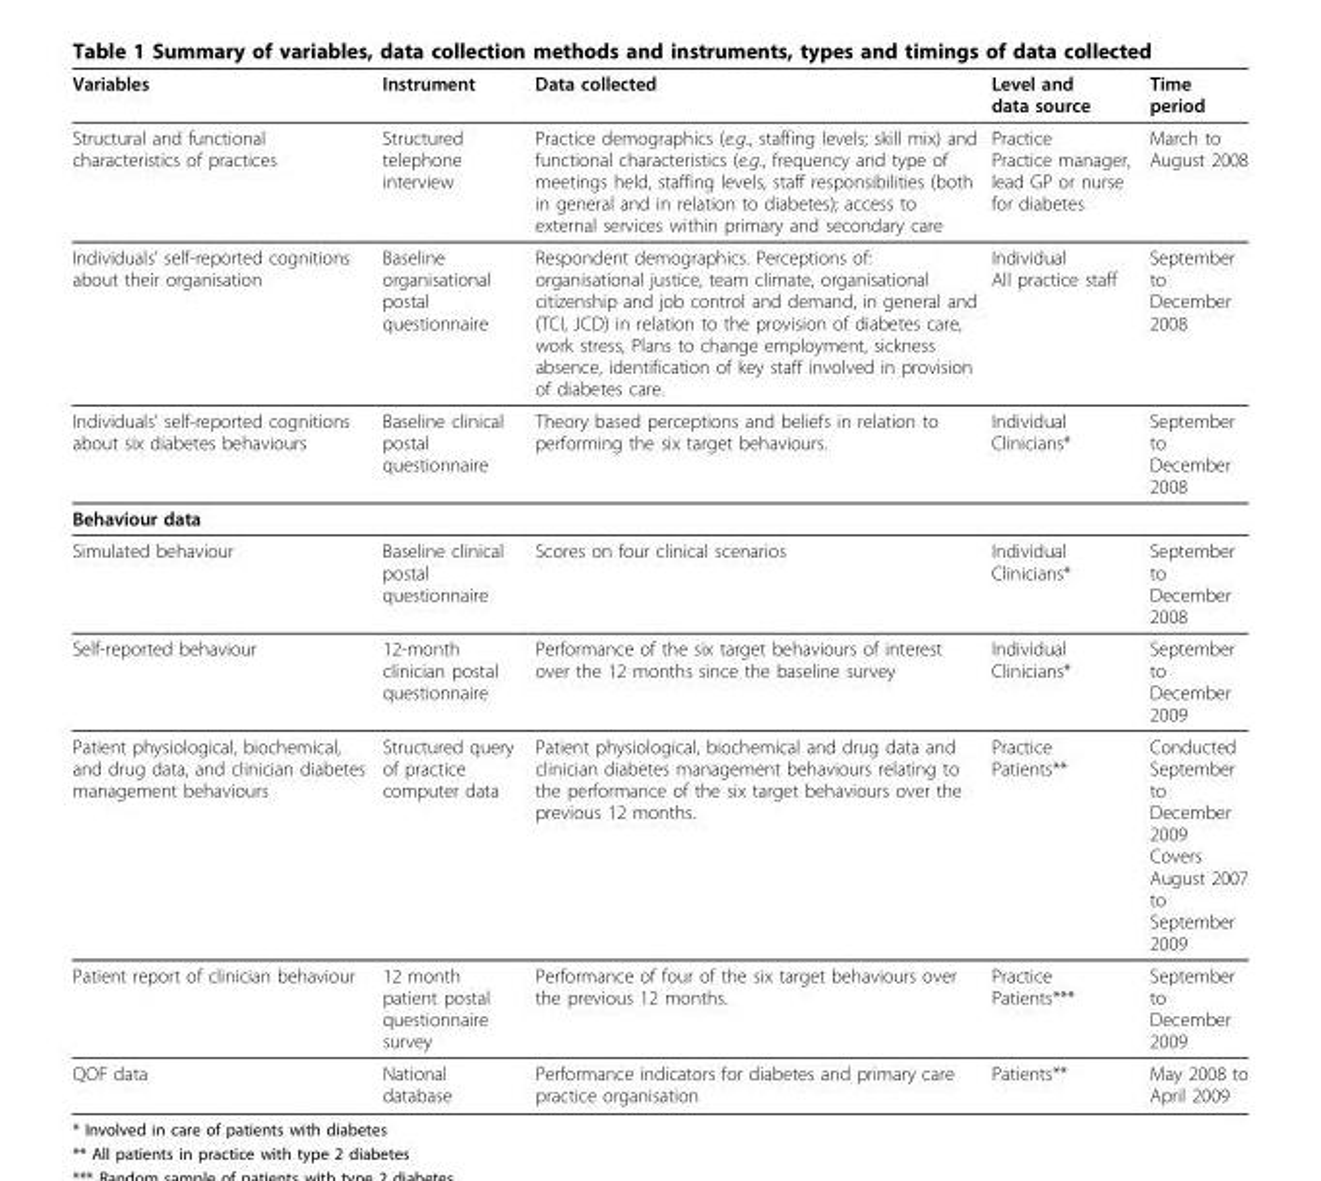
<table><thead><tr><td>Variables</td><td>Instrument</td><td>Data collected</td><td>Level and data source</td><td>Time period</td></tr></thead><tbody><tr><td>Structural and functional characteristics of practices</td><td>Structured telephone interview</td><td>Practice demographics (e.g., staffing levels; skill mix) and functional characteristics (e.g., frequency and type of meetings held, staffing levels, staff responsibilities (both in general and in relation to diabetes); access to external services within primary and secondary care</td><td>Practice Practice manager, lead GP or nurse for diabetes</td><td>March to August 2008</td></tr><tr><td>Individuals’ self-reported cognitions about their organisation</td><td>Baseline organisational postal questionnaire</td><td>Respondent demographics. Perceptions of: organisational justice, team climate, organisational citizenship and job control and demand, in general and (TCI, JCD) in relation to the provision of diabetes care, work stress, Plans to change employment, sickness absence, identification of key staff involved in provision of diabetes care.</td><td>Individual All practice staff</td><td>September to December 2008</td></tr><tr><td>Individuals’ self-reported cognitions about six diabetes behaviours</td><td>Baseline clinical postal questionnaire</td><td>Theory based perceptions and beliefs in relation to performing the six target behaviours.</td><td>Individual Clinicians*</td><td>September to December 2008</td></tr><tr><td colspan="5">Behaviour data</td></tr><tr><td>Simulated behaviour</td><td>Baseline clinical postal questionnaire</td><td>Scores on four clinical scenarios</td><td>Individual Clinicians*</td><td>September to December 2008</td></tr><tr><td>Self-reported behaviour</td><td>12-month clinician postal questionnaire</td><td>Performance of the six target behaviours of interest over the 12 months since the baseline survey</td><td>Individual Clinicians*</td><td>September to December 2009</td></tr><tr><td>Patient physiological, biochemical, and drug data, and clinician diabetes management behaviours</td><td>Structured query of practice computer data</td><td>Patient physiological, biochemical and drug data and clinician diabetes management behaviours relating to the performance of the six target behaviours over the previous 12 months.</td><td>Practice Patients**</td><td>Conducted September to December 2009 Covers August 2007 to September 2009</td></tr><tr><td>Patient report of clinician behaviour</td><td>12 month patient postal questionnaire survey</td><td>Performance of four of the six target behaviours over the previous 12 months.</td><td>Practice Patients***</td><td>September to December 2009</td></tr><tr><td>QOF data</td><td>National database</td><td>Performance indicators for diabetes and primary care practice organisation</td><td>Patients**</td><td>May 2008 to April 2009</td></tr></tbody></table>